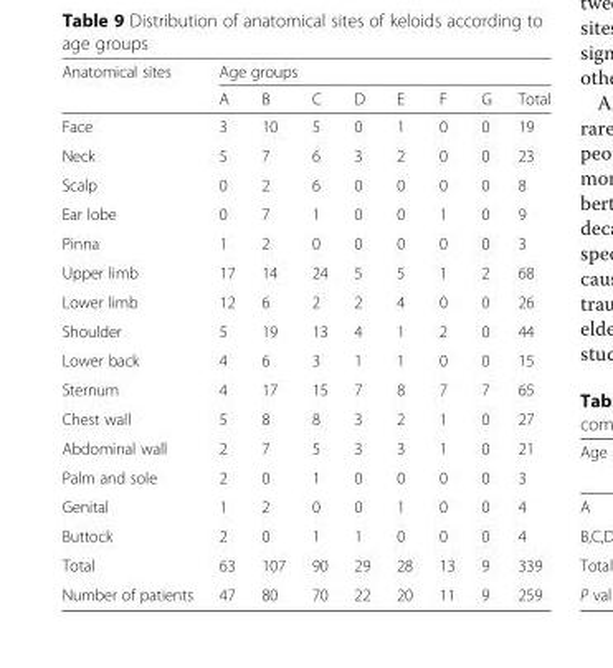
<table><thead><tr><td rowspan="2">Anatomical sites</td><td colspan="8">Age groups</td></tr><tr><td>A</td><td>B</td><td>C</td><td>D</td><td>E</td><td>F</td><td>G</td><td>Total</td></tr></thead><tbody><tr><td>Face</td><td>3</td><td>10</td><td>5</td><td>0</td><td>1</td><td>0</td><td>0</td><td>19</td></tr><tr><td>Neck</td><td>5</td><td>7</td><td>6</td><td>3</td><td>2</td><td>0</td><td>0</td><td>23</td></tr><tr><td>Scalp</td><td>0</td><td>2</td><td>6</td><td>0</td><td>0</td><td>0</td><td>0</td><td>8</td></tr><tr><td>Ear lobe</td><td>0</td><td>7</td><td>1</td><td>0</td><td>0</td><td>1</td><td>0</td><td>9</td></tr><tr><td>Pinna</td><td>1</td><td>2</td><td>0</td><td>0</td><td>0</td><td>0</td><td>0</td><td>3</td></tr><tr><td>Upper limb</td><td>17</td><td>14</td><td>24</td><td>5</td><td>5</td><td>1</td><td>2</td><td>68</td></tr><tr><td>Lower limb</td><td>12</td><td>6</td><td>2</td><td>2</td><td>4</td><td>0</td><td>0</td><td>26</td></tr><tr><td>Shoulder</td><td>5</td><td>19</td><td>13</td><td>4</td><td>1</td><td>2</td><td>0</td><td>44</td></tr><tr><td>Lower back</td><td>4</td><td>6</td><td>3</td><td>1</td><td>1</td><td>0</td><td>0</td><td>15</td></tr><tr><td>Sternum</td><td>4</td><td>17</td><td>15</td><td>7</td><td>8</td><td>7</td><td>7</td><td>65</td></tr><tr><td>Chest wall</td><td>5</td><td>8</td><td>8</td><td>3</td><td>2</td><td>1</td><td>0</td><td>27</td></tr><tr><td>Abdominal wall</td><td>2</td><td>7</td><td>5</td><td>3</td><td>3</td><td>1</td><td>0</td><td>21</td></tr><tr><td>Palm and sole</td><td>2</td><td>0</td><td>1</td><td>0</td><td>0</td><td>0</td><td>0</td><td>3</td></tr><tr><td>Genital</td><td>1</td><td>2</td><td>0</td><td>0</td><td>1</td><td>0</td><td>0</td><td>4</td></tr><tr><td>Buttock</td><td>2</td><td>0</td><td>1</td><td>1</td><td>0</td><td>0</td><td>0</td><td>4</td></tr><tr><td>Total</td><td>63</td><td>107</td><td>90</td><td>29</td><td>28</td><td>13</td><td>9</td><td>339</td></tr><tr><td>Number of patients</td><td>47</td><td>80</td><td>70</td><td>22</td><td>20</td><td>11</td><td>9</td><td>259</td></tr></tbody></table>